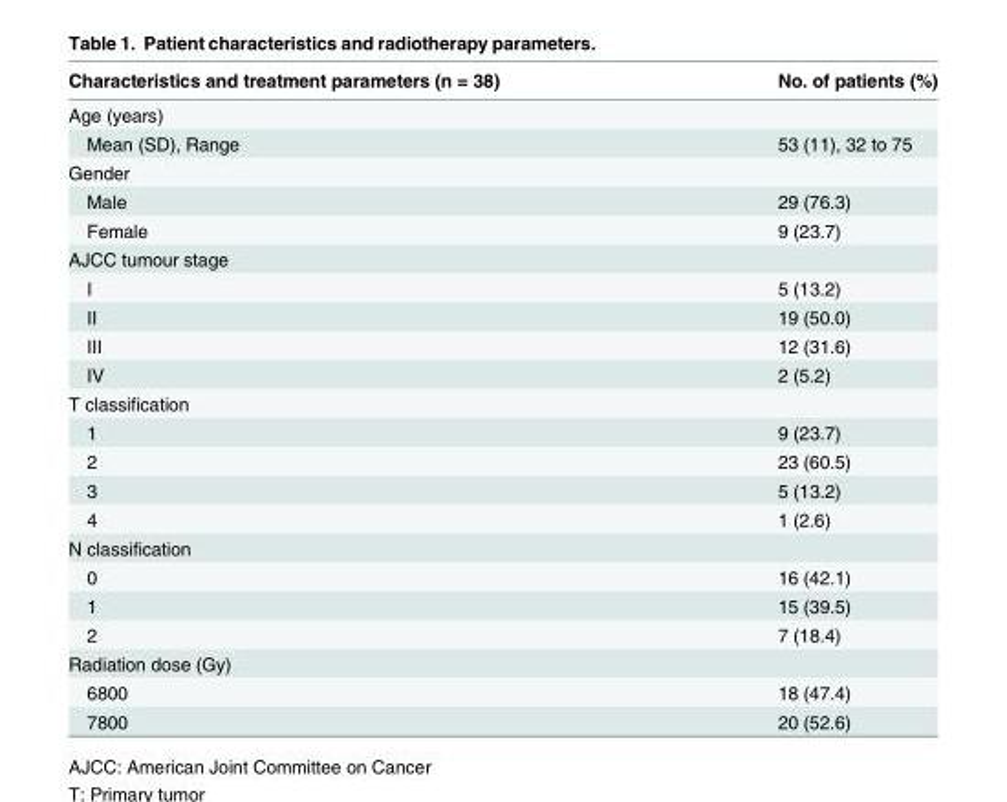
<table><thead><tr><td>Characteristics and treatment parameters (n = 38)</td><td>No. of patients (%)</td></tr></thead><tbody><tr><td colspan="2">Age (years)</td></tr><tr><td>Mean (SD), Range</td><td>53 (11), 32 to 75</td></tr><tr><td colspan="2">Gender</td></tr><tr><td>Male</td><td>29 (76.3)</td></tr><tr><td>Female</td><td>9 (23.7)</td></tr><tr><td colspan="2">AJCC tumour stage</td></tr><tr><td>I</td><td>5 (13.2)</td></tr><tr><td>II</td><td>19 (50.0)</td></tr><tr><td>III</td><td>12 (31.6)</td></tr><tr><td>IV</td><td>2 (5.2)</td></tr><tr><td colspan="2">T classification</td></tr><tr><td>1</td><td>9 (23.7)</td></tr><tr><td>2</td><td>23 (60.5)</td></tr><tr><td>3</td><td>5 (13.2)</td></tr><tr><td>4</td><td>1 (2.6)</td></tr><tr><td colspan="2">N classification</td></tr><tr><td>0</td><td>16 (42.1)</td></tr><tr><td>1</td><td>15 (39.5)</td></tr><tr><td>2</td><td>7 (18.4)</td></tr><tr><td colspan="2">Radiation dose (Gy)</td></tr><tr><td>6800</td><td>18 (47.4)</td></tr><tr><td>7800</td><td>20 (52.6)</td></tr></tbody></table>